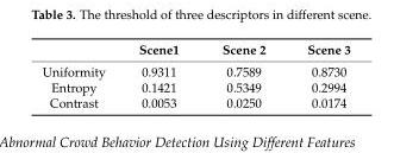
<table><thead><tr><td></td><td>Scene1</td><td>Scene 2</td><td>Scene 3</td></tr></thead><tbody><tr><td>Uniformity</td><td>0.9311</td><td>0.7589</td><td>0.8730</td></tr><tr><td>Entropy</td><td>0.1421</td><td>0.5349</td><td>0.2994</td></tr><tr><td>Contrast</td><td>0.0053</td><td>0.0250</td><td>0.0174</td></tr></tbody></table>